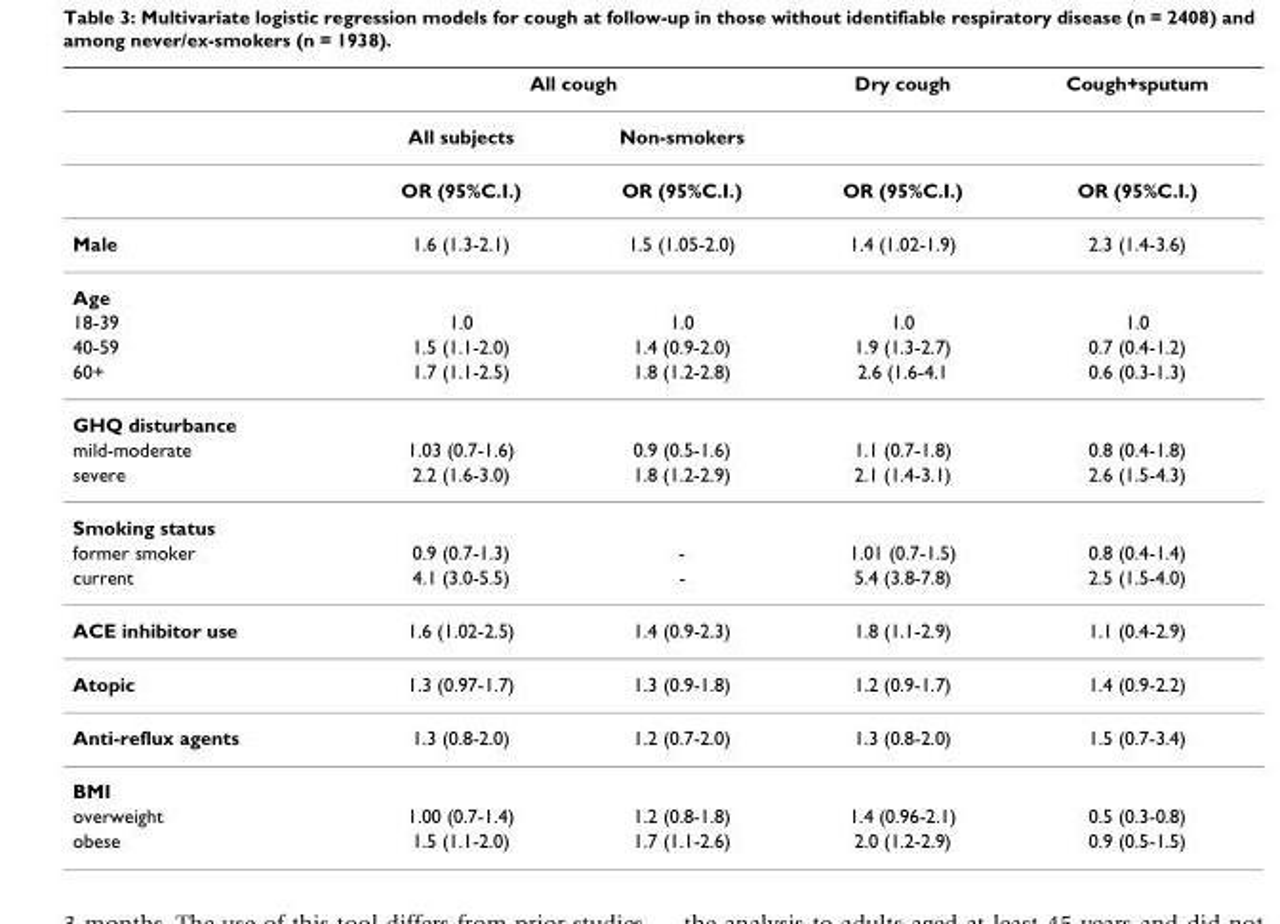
<table><thead><tr><td rowspan="2"></td><td colspan="2">All cough</td><td rowspan="2">Dry cough</td><td rowspan="2">Cough+sputum</td></tr><tr><td>All subjects</td><td>Non-smokers</td></tr></thead><tbody><tr><td></td><td>OR (95%C.I.)</td><td>OR (95%C.I.)</td><td>OR (95%C.I.)</td><td>OR (95%C.I.)</td></tr><tr><td>Male</td><td>1.6 (1.3-2.1)</td><td>1.5 (1.05-2.0)</td><td>1.4 (1.02-1.9)</td><td>2.3 (1.4-3.6)</td></tr><tr><td colspan="5">Age</td></tr><tr><td>18-39</td><td>1.0</td><td>1.0</td><td>1.0</td><td>1.0</td></tr><tr><td>40-59</td><td>1.5 (1.1-2.0)</td><td>1.4 (0.9-2.0)</td><td>1.9 (1.3-2.7)</td><td>0.7 (0.4-1.2)</td></tr><tr><td>60+</td><td>1.7 (1.1-2.5)</td><td>1.8 (1.2-2.8)</td><td>2.6 (1.6-4.1</td><td>0.6 (0.3-1.3)</td></tr><tr><td colspan="5">GHQ disturbance</td></tr><tr><td>mild-moderate</td><td>1.03 (0.7-1.6)</td><td>0.9 (0.5-1.6)</td><td>1.1 (0.7-1.8)</td><td>0.8 (0.4-1.8)</td></tr><tr><td>severe</td><td>2.2 (1.6-3.0)</td><td>1.8 (1.2-2.9)</td><td>2.1 (1.4-3.1)</td><td>2.6 (1.5-4.3)</td></tr><tr><td colspan="5">Smoking status</td></tr><tr><td>former smoker</td><td>0.9 (0.7-1.3)</td><td>-</td><td>1.01 (0.7-1.5)</td><td>0.8 (0.4-1.4)</td></tr><tr><td>current</td><td>4.1 (3.0-5.5)</td><td>-</td><td>5.4 (3.8-7.8)</td><td>2.5 (1.5-4.0)</td></tr><tr><td>ACE inhibitor use</td><td>1.6 (1.02-2.5)</td><td>1.4 (0.9-2.3)</td><td>1.8 (1.1-2.9)</td><td>1.1 (0.4-2.9)</td></tr><tr><td>Atopic</td><td>1.3 (0.97-1.7)</td><td>1.3 (0.9-1.8)</td><td>1.2 (0.9-1.7)</td><td>1.4 (0.9-2.2)</td></tr><tr><td>Anti-reflux agents</td><td>1.3 (0.8-2.0)</td><td>1.2 (0.7-2.0)</td><td>1.3 (0.8-2.0)</td><td>1.5 (0.7-3.4)</td></tr><tr><td colspan="5">BMI</td></tr><tr><td>overweight</td><td>1.00 (0.7-1.4)</td><td>1.2 (0.8-1.8)</td><td>1.4 (0.96-2.1)</td><td>0.5 (0.3-0.8)</td></tr><tr><td>obese</td><td>1.5 (1.1-2.0)</td><td>1.7 (1.1-2.6)</td><td>2.0 (1.2-2.9)</td><td>0.9 (0.5-1.5)</td></tr></tbody></table>